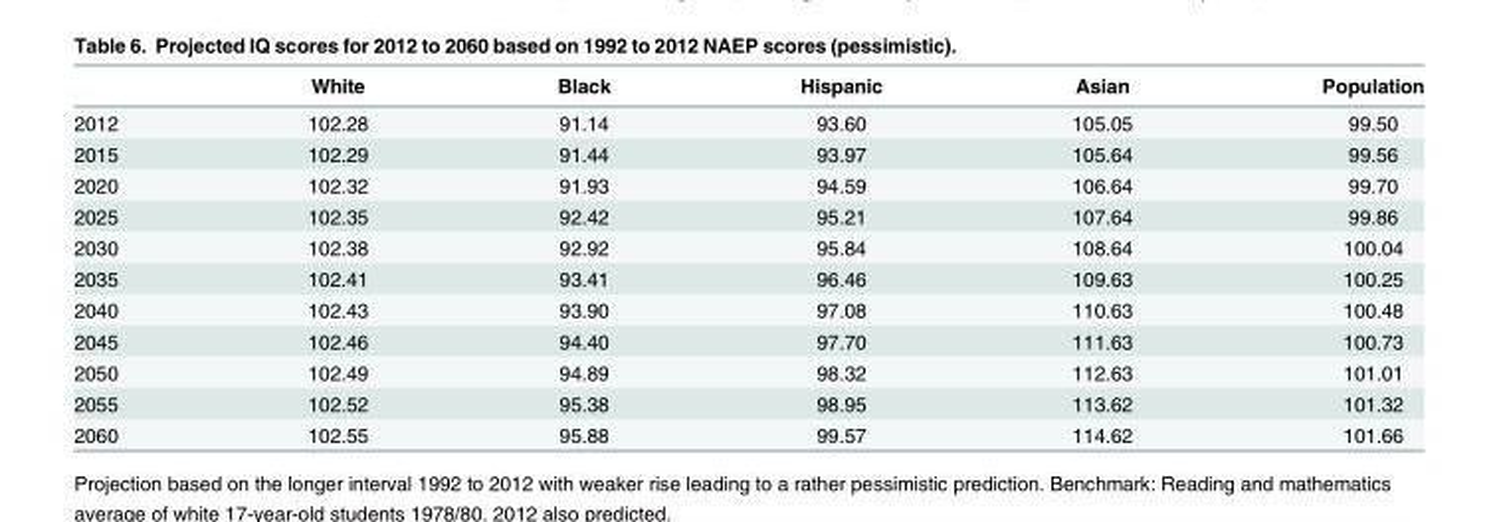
<table><thead><tr><td></td><td>White</td><td>Black</td><td>Hispanic</td><td>Asian</td><td>Population</td></tr></thead><tbody><tr><td>2012</td><td>102.28</td><td>91.14</td><td>93.60</td><td>105.05</td><td>99.50</td></tr><tr><td>2015</td><td>102.29</td><td>91.44</td><td>93.97</td><td>105.64</td><td>99.56</td></tr><tr><td>2020</td><td>102.32</td><td>91.93</td><td>94.59</td><td>106.64</td><td>99.70</td></tr><tr><td>2025</td><td>102.35</td><td>92.42</td><td>95.21</td><td>107.64</td><td>99.86</td></tr><tr><td>2030</td><td>102.38</td><td>92.92</td><td>95.84</td><td>108.64</td><td>100.04</td></tr><tr><td>2035</td><td>102.41</td><td>93.41</td><td>96.46</td><td>109.63</td><td>100.25</td></tr><tr><td>2040</td><td>102.43</td><td>93.90</td><td>97.08</td><td>110.63</td><td>100.48</td></tr><tr><td>2045</td><td>102.46</td><td>94.40</td><td>97.70</td><td>111.63</td><td>100.73</td></tr><tr><td>2050</td><td>102.49</td><td>94.89</td><td>98.32</td><td>112.63</td><td>101.01</td></tr><tr><td>2055</td><td>102.52</td><td>95.38</td><td>98.95</td><td>113.62</td><td>101.32</td></tr><tr><td>2060</td><td>102.55</td><td>95.88</td><td>99.57</td><td>114.62</td><td>101.66</td></tr></tbody></table>